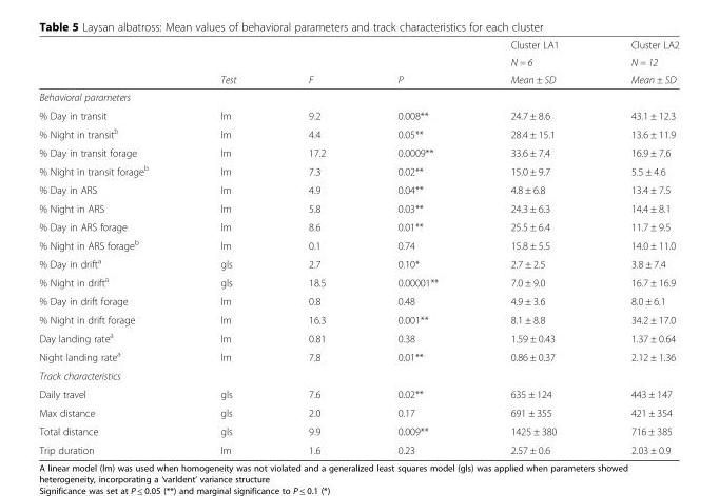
<table><thead><tr><td rowspan="3"></td><td rowspan="3">Test</td><td rowspan="3">F</td><td rowspan="3">P</td><td rowspan="3">Cluster LA1 N = 6 Mean ± SD</td><td rowspan="3">Cluster LA2 N = 12 Mean ± SD</td></tr><tr></tr><tr></tr></thead><tbody><tr><td colspan="6">Behavioral parameters</td></tr><tr><td>% Day in transit</td><td>lm</td><td>9.2</td><td>0.008**</td><td>24.7 ± 8.6</td><td>43.1 ± 12.3</td></tr><tr><td>% Night in transit<sup>b</sup></td><td>lm</td><td>4.4</td><td>0.05**</td><td>28.4 ± 15.1</td><td>13.6 ± 11.9</td></tr><tr><td>% Day in transit forage</td><td>lm</td><td>17.2</td><td>0.0009**</td><td>33.6 ± 7.4</td><td>16.9 ± 7.6</td></tr><tr><td>% Night in transit forage<sup>b</sup></td><td>lm</td><td>7.3</td><td>0.02**</td><td>15.0 ± 9.7</td><td>5.5 ± 4.6</td></tr><tr><td>% Day in ARS</td><td>lm</td><td>4.9</td><td>0.04**</td><td>4.8 ± 6.8</td><td>13.4 ± 7.5</td></tr><tr><td>% Night in ARS</td><td>lm</td><td>5.8</td><td>0.03**</td><td>24.3 ± 6.3</td><td>14.4 ± 8.1</td></tr><tr><td>% Day in ARS forage</td><td>lm</td><td>8.6</td><td>0.01**</td><td>25.5 ± 6.4</td><td>11.7 ± 9.5</td></tr><tr><td>% Night in ARS forage<sup>b</sup></td><td>lm</td><td>0.1</td><td>0.74</td><td>15.8 ± 5.5</td><td>14.0 ± 11.0</td></tr><tr><td>% Day in drift<sup>a</sup></td><td>gls</td><td>2.7</td><td>0.10*</td><td>2.7 ± 2.5</td><td>3.8 ± 7.4</td></tr><tr><td>% Night in drift<sup>a</sup></td><td>gls</td><td>18.5</td><td>0.00001**</td><td>7.0 ± 9.0</td><td>16.7 ± 16.9</td></tr><tr><td>% Day in drift forage</td><td>lm</td><td>0.8</td><td>0.48</td><td>4.9 ± 3.6</td><td>8.0 ± 6.1</td></tr><tr><td>% Night in drift forage</td><td>lm</td><td>16.3</td><td>0.001**</td><td>8.1 ± 8.8</td><td>34.2 ± 17.0</td></tr><tr><td>Day landing rate<sup>a</sup></td><td>lm</td><td>0.81</td><td>0.38</td><td>1.59 ± 0.43</td><td>1.37 ± 0.64</td></tr><tr><td>Night landing rate<sup>a</sup></td><td>lm</td><td>7.8</td><td>0.01**</td><td>0.86 ± 0.37</td><td>2.12 ± 1.36</td></tr><tr><td colspan="6">Track characteristics</td></tr><tr><td>Daily travel</td><td>gls</td><td>7.6</td><td>0.02**</td><td>635 ± 124</td><td>443 ± 147</td></tr><tr><td>Max distance</td><td>gls</td><td>2.0</td><td>0.17</td><td>691 ± 355</td><td>421 ± 354</td></tr><tr><td>Total distance</td><td>gls</td><td>9.9</td><td>0.009**</td><td>1425 ± 380</td><td>716 ± 385</td></tr><tr><td>Trip duration</td><td>lm</td><td>1.6</td><td>0.23</td><td>2.57 ± 0.6</td><td>2.03 ± 0.9</td></tr></tbody></table>